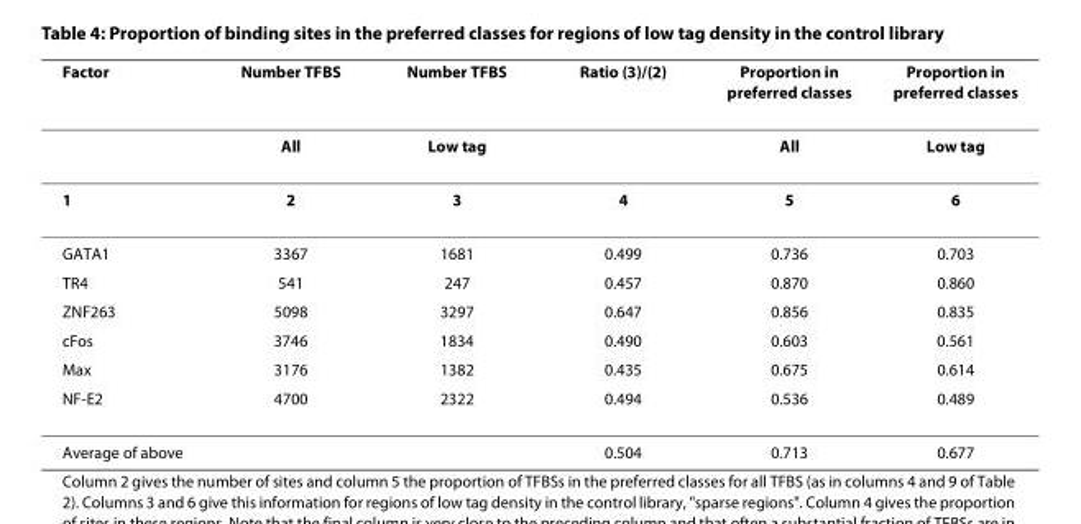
<table><thead><tr><td>Factor</td><td>Number TFBS</td><td>Number TFBS</td><td>Ratio (3)/(2)</td><td>Proportion in preferred classes</td><td>Proportion in preferred classes</td></tr></thead><tbody><tr><td></td><td>All</td><td>Low tag</td><td></td><td>All</td><td>Low tag</td></tr><tr><td>1</td><td>2</td><td>3</td><td>4</td><td>5</td><td>6</td></tr><tr><td>GATA1</td><td>3367</td><td>1681</td><td>0.499</td><td>0.736</td><td>0.703</td></tr><tr><td>TR4</td><td>541</td><td>247</td><td>0.457</td><td>0.870</td><td>0.860</td></tr><tr><td>ZNF263</td><td>5098</td><td>3297</td><td>0.647</td><td>0.856</td><td>0.835</td></tr><tr><td>cFos</td><td>3746</td><td>1834</td><td>0.490</td><td>0.603</td><td>0.561</td></tr><tr><td>Max</td><td>3176</td><td>1382</td><td>0.435</td><td>0.675</td><td>0.614</td></tr><tr><td>NF-E2</td><td>4700</td><td>2322</td><td>0.494</td><td>0.536</td><td>0.489</td></tr><tr><td>Average of above</td><td></td><td></td><td>0.504</td><td>0.713</td><td>0.677</td></tr></tbody></table>